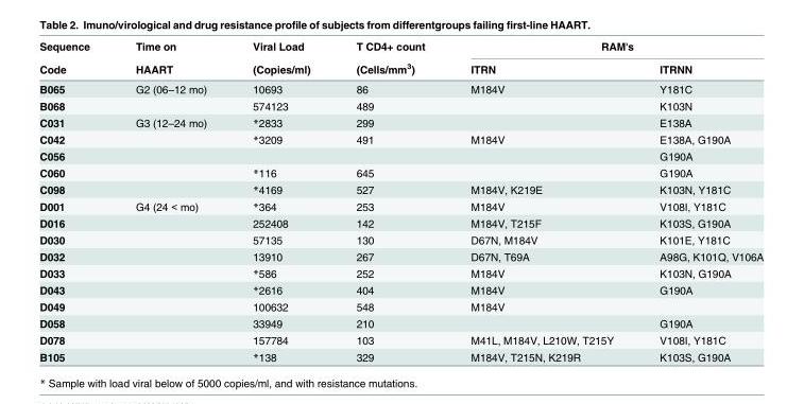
<table><thead><tr><td rowspan="2">Sequence Code</td><td rowspan="2">Time on HAART</td><td rowspan="2">Viral Load (Copies/ml)</td><td rowspan="2">T CD4+ count (Cells/mm<sup>3</sup>)</td><td colspan="2">RAM&#x27;s</td></tr><tr><td>ITRN</td><td>ITRNN</td></tr></thead><tbody><tr><td>B065</td><td>G2 (06–12 mo)</td><td>10693</td><td>86</td><td>M184V</td><td>Y181C</td></tr><tr><td>B068</td><td></td><td>574123</td><td>489</td><td></td><td>K103N</td></tr><tr><td>C031</td><td>G3 (12–24 mo)</td><td>*2833</td><td>299</td><td></td><td>E138A</td></tr><tr><td>C042</td><td></td><td>*3209</td><td>491</td><td>M184V</td><td>E138A, G190A</td></tr><tr><td>C056</td><td></td><td></td><td></td><td></td><td>G190A</td></tr><tr><td>C060</td><td></td><td>*116</td><td>645</td><td></td><td>G190A</td></tr><tr><td>C098</td><td></td><td>*4169</td><td>527</td><td>M184V, K219E</td><td>K103N, Y181C</td></tr><tr><td>D001</td><td>G4 (24 &lt; mo)</td><td>*364</td><td>253</td><td>M184V</td><td>V108I, Y181C</td></tr><tr><td>D016</td><td></td><td>252408</td><td>142</td><td>M184V, T215F</td><td>K103S, G190A</td></tr><tr><td>D030</td><td></td><td>57135</td><td>130</td><td>D67N, M184V</td><td>K101E, Y181C</td></tr><tr><td>D032</td><td></td><td>13910</td><td>267</td><td>D67N, T69A</td><td>A98G, K101Q, V106A</td></tr><tr><td>D033</td><td></td><td>*586</td><td>252</td><td>M184V</td><td>K103N, G190A</td></tr><tr><td>D043</td><td></td><td>*2616</td><td>404</td><td>M184V</td><td>G190A</td></tr><tr><td>D049</td><td></td><td>100632</td><td>548</td><td>M184V</td><td></td></tr><tr><td>D058</td><td></td><td>33949</td><td>210</td><td></td><td>G190A</td></tr><tr><td>D078</td><td></td><td>157784</td><td>103</td><td>M41L, M184V, L210W, T215Y</td><td>V108I, Y181C</td></tr><tr><td>B105</td><td></td><td>*138</td><td>329</td><td>M184V, T215N, K219R</td><td>K103S, G190A</td></tr></tbody></table>